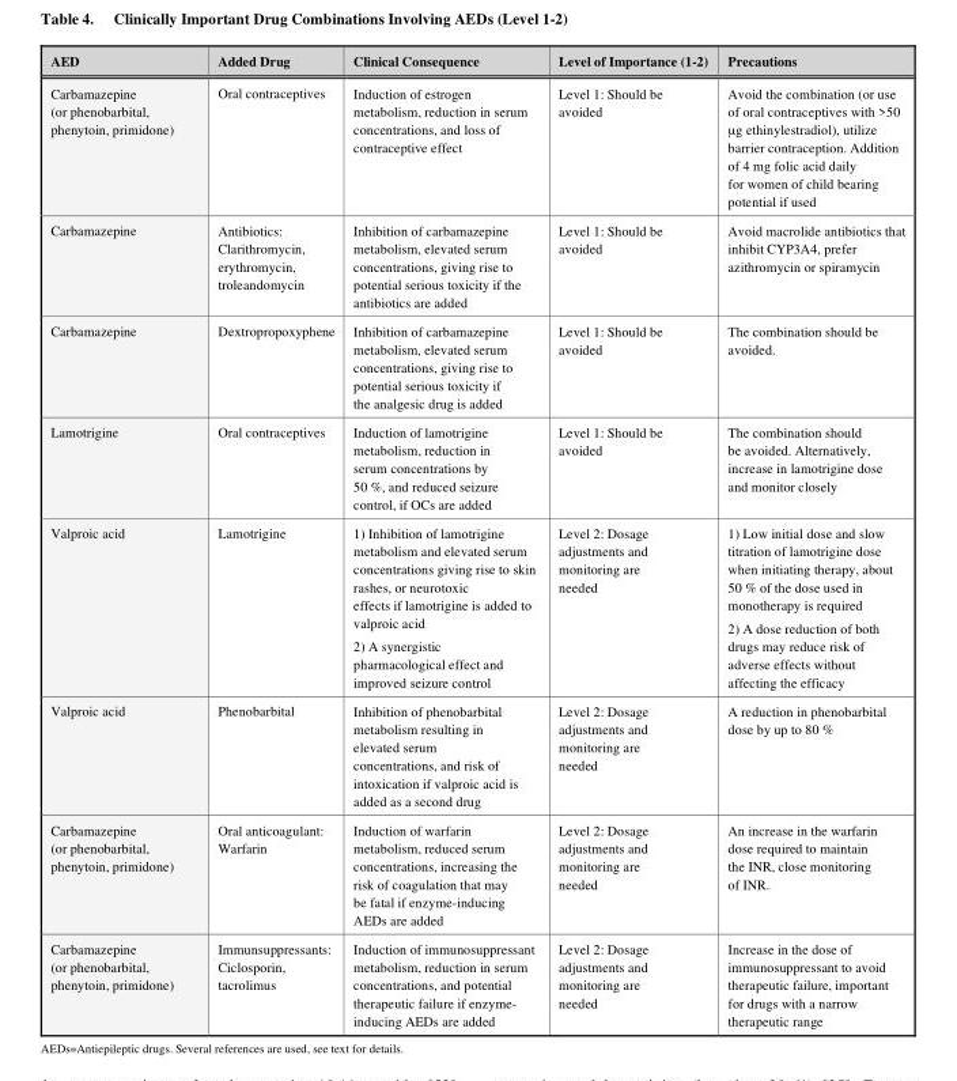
<table><thead><tr><td>AED</td><td>Added Drug</td><td>Clinical Consequence</td><td>Level of Importance (1-2)</td><td>Precautions</td></tr></thead><tbody><tr><td>Carbamazepine (or phenobarbital, phenytoin, primidone)</td><td>Oral contraceptives</td><td>Induction of estrogen metabolism, reduction in serum concentrations, and loss of contraceptive effect</td><td>Level 1: Should be avoided</td><td>Avoid the combination (or use of oral contraceptives with &gt;50 μg ethinylestradiol), utilize barrier contraception. Addition of 4 mg folic acid daily for women of child bearing potential if used</td></tr><tr><td>Carbamazepine</td><td>Antibiotics: Clarithromycin, erythromycin, troleandomycin</td><td>Inhibition of carbamazepine metabolism, elevated serum concentrations, giving rise to potential serious toxicity if the antibiotics are added</td><td>Level 1: Should be avoided</td><td>Avoid macrolide antibiotics that inhibit CYP3A4, prefer azithromycin or spiramycin</td></tr><tr><td>Carbamazepine</td><td>Dextropropoxyphene</td><td>Inhibition of carbamazepine metabolism, elevated serum concentrations, giving rise to potential serious toxicity if the analgesic drug is added</td><td>Level 1: Should be avoided</td><td>The combination should be avoided.</td></tr><tr><td>Lamotrigine</td><td>Oral contraceptives</td><td>Induction of lamotrigine metabolism, reduction in serum concentrations by 50 %, and reduced seizure control, if OCs are added</td><td>Level 1: Should be avoided</td><td>The combination should be avoided. Alternatively, increase in lamotrigine dose and monitor closely</td></tr><tr><td>Valproic acid</td><td>Lamotrigine</td><td>1) Inhibition of lamotrigine metabolism and elevated serum concentrations giving rise to skin rashes, or neurotoxic effects if lamotrigine is added to valproic acid 2) A synergistic pharmacological effect and improved seizure control</td><td>Level 2: Dosage adjustments and monitoring are needed</td><td>1) Low initial dose and slow titration of lamotrigine dose when initiating therapy, about 50 % of the dose used in monotherapy is required 2) A dose reduction of both drugs may reduce risk of adverse effects without affecting the efficacy</td></tr><tr><td>Valproic acid</td><td>Phenobarbital</td><td>Inhibition of phenobarbital metabolism resulting in elevated serum concentrations, and risk of intoxication if valproic acid is added as a second drug</td><td>Level 2: Dosage adjustments and monitoring are needed</td><td>A reduction in phenobarbital dose by up to 80 %</td></tr><tr><td>Carbamazepine (or phenobarbital, phenytoin, primidone)</td><td>Oral anticoagulant: Warfarin</td><td>Induction of warfarin metabolism, reduced serum concentrations, increasing the risk of coagulation that may be fatal if enzyme-inducing AEDs are added</td><td>Level 2: Dosage adjustments and monitoring are needed</td><td>An increase in the warfarin dose required to maintain the INR, close monitoring of INR.</td></tr><tr><td>Carbamazepine (or phenobarbital, phenytoin, primidone)</td><td>Immunsuppressants: Ciclosporin, tacrolimus</td><td>Induction of immunosuppressant metabolism, reduction in serum concentrations, and potential therapeutic failure if enzyme- inducing AEDs are added</td><td>Level 2: Dosage adjustments and monitoring are needed</td><td>Increase in the dose of immunosuppressant to avoid therapeutic failure, important for drugs with a narrow therapeutic range</td></tr></tbody></table>